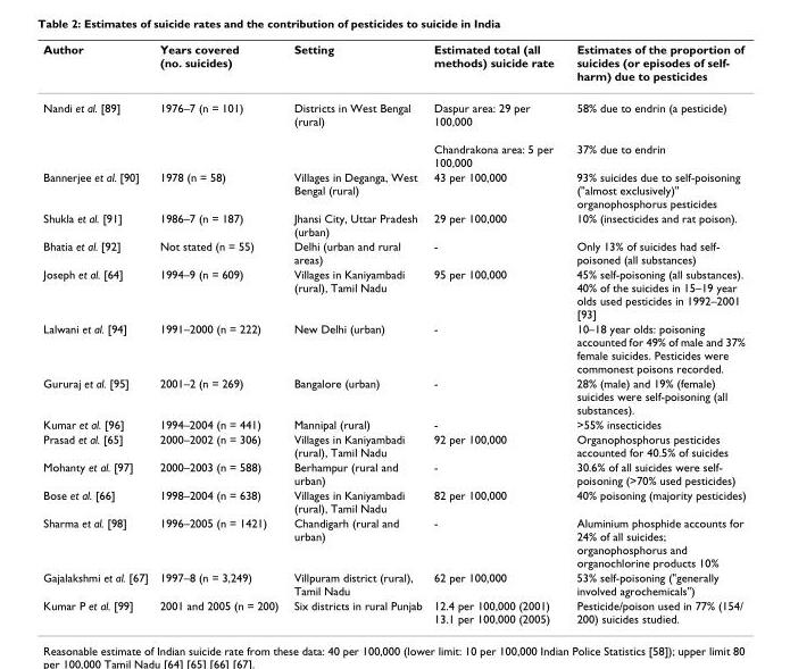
<table><thead><tr><td>Author</td><td>Years covered (no. suicides)</td><td>Setting</td><td>Estimated total (all methods) suicide rate</td><td>Estimates of the proportion of suicides (or episodes of self- harm) due to pesticides</td></tr></thead><tbody><tr><td rowspan="2">Nandi et al. [89]</td><td>1976–7 (n = 101)</td><td>Districts in West Bengal (rural)</td><td>Daspur area: 29 per 100,000</td><td>58% due to endrin (a pesticide)</td></tr><tr><td></td><td></td><td>Chandrakona area: 5 per 100,000</td><td>37% due to endrin</td></tr><tr><td>Bannerjee et al. [90]</td><td>1978 (n = 58)</td><td>Villages in Deganga, West Bengal (rural)</td><td>43 per 100,000</td><td>93% suicides due to self-poisoning (&quot;almost exclusively)&quot; organophosphorus pesticides</td></tr><tr><td>Shukla et al. [91]</td><td>1986–7 (n = 187)</td><td>Jhansi City, Uttar Pradesh (urban)</td><td>29 per 100,000</td><td>10% (insecticides and rat poison).</td></tr><tr><td>Bhatia et al. [92]</td><td>Not stated (n = 55)</td><td>Delhi (urban and rural areas)</td><td>-</td><td>Only 13% of suicides had self- poisoned (all substances)</td></tr><tr><td>Joseph et al. [64]</td><td>1994–9 (n = 609)</td><td>Villages in Kaniyambadi (rural), Tamil Nadu</td><td>95 per 100,000</td><td>45% self-poisoning (all substances). 40% of the suicides in 15–19 year olds used pesticides in 1992–2001 [93]</td></tr><tr><td>Lalwani et al. [94]</td><td>1991–2000 (n = 222)</td><td>New Delhi (urban)</td><td>-</td><td>10–18 year olds: poisoning accounted for 49% of male and 37% female suicides. Pesticides were commonest poisons recorded.</td></tr><tr><td>Gururaj et al. [95]</td><td>2001–2 (n = 269)</td><td>Bangalore (urban)</td><td>-</td><td>28% (male) and 19% (female) suicides were self-poisoning (all substances).</td></tr><tr><td>Kumar et al. [96]</td><td>1994–2004 (n = 441)</td><td>Mannipal (rural)</td><td>-</td><td>&gt;55% insecticides</td></tr><tr><td>Prasad et al. [65]</td><td>2000–2002 (n = 306)</td><td>Villages in Kaniyambadi (rural), Tamil Nadu</td><td>92 per 100,000</td><td>Organophosphorus pesticides accounted for 40.5% of suicides</td></tr><tr><td>Mohanty et al. [97]</td><td>2000–2003 (n = 588)</td><td>Berhampur (rural and urban)</td><td>-</td><td>30.6% of all suicides were self- poisoning (&gt;70% used pesticides)</td></tr><tr><td>Bose et al. [66]</td><td>1998–2004 (n = 638)</td><td>Villages in Kaniyambadi (rural), Tamil Nadu</td><td>82 per 100,000</td><td>40% poisoning (majority pesticides)</td></tr><tr><td>Sharma et al. [98]</td><td>1996–2005 (n = 1421)</td><td>Chandigarh (rural and urban)</td><td>-</td><td>Aluminium phosphide accounts for 24% of all suicides; organophosphorus and organochlorine products 10%</td></tr><tr><td>Gajalakshmi et al. [67]</td><td>1997–8 (n = 3,249)</td><td>Villpuram district (rural), Tamil Nadu</td><td>62 per 100,000</td><td>53% self-poisoning (&quot;generally involved agrochemicals&quot;)</td></tr><tr><td>Kumar P et al. [99]</td><td>2001 and 2005 (n = 200)</td><td>Six districts in rural Punjab</td><td>12.4 per 100,000 (2001) 13.1 per 100,000 (2005)</td><td>Pesticide/poison used in 77% (154/ 200) suicides studied.</td></tr></tbody></table>